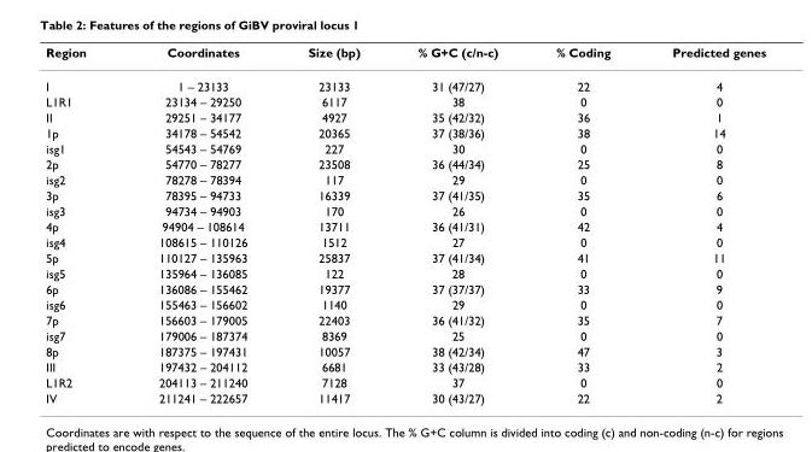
<table><thead><tr><td>Region</td><td>Coordinates</td><td>Size (bp)</td><td>% G+C (c/n-c)</td><td>% Coding</td><td>Predicted genes</td></tr></thead><tbody><tr><td>I</td><td>1 – 23133</td><td>23133</td><td>31 (47/27)</td><td>22</td><td>4</td></tr><tr><td>L1R1</td><td>23134 – 29250</td><td>6117</td><td>38</td><td>0</td><td>0</td></tr><tr><td>II</td><td>29251 – 34177</td><td>4927</td><td>35 (42/32)</td><td>36</td><td>1</td></tr><tr><td>1p</td><td>34178 – 54542</td><td>20365</td><td>37 (38/36)</td><td>38</td><td>14</td></tr><tr><td>isg1</td><td>54543 – 54769</td><td>227</td><td>30</td><td>0</td><td>0</td></tr><tr><td>2p</td><td>54770 – 78277</td><td>23508</td><td>36 (44/34)</td><td>25</td><td>8</td></tr><tr><td>isg2</td><td>78278 – 78394</td><td>117</td><td>29</td><td>0</td><td>0</td></tr><tr><td>3p</td><td>78395 – 94733</td><td>16339</td><td>37 (41/35)</td><td>35</td><td>6</td></tr><tr><td>isg3</td><td>94734 – 94903</td><td>170</td><td>26</td><td>0</td><td>0</td></tr><tr><td>4p</td><td>94904 – 108614</td><td>13711</td><td>36 (41/31)</td><td>42</td><td>4</td></tr><tr><td>isg4</td><td>108615 – 110126</td><td>1512</td><td>27</td><td>0</td><td>0</td></tr><tr><td>5p</td><td>110127 – 135963</td><td>25837</td><td>37 (41/34)</td><td>41</td><td>11</td></tr><tr><td>isg5</td><td>135964 – 136085</td><td>122</td><td>28</td><td>0</td><td>0</td></tr><tr><td>6p</td><td>136086 – 155462</td><td>19377</td><td>37 (37/37)</td><td>33</td><td>9</td></tr><tr><td>isg6</td><td>155463 – 156602</td><td>1140</td><td>29</td><td>0</td><td>0</td></tr><tr><td>7p</td><td>156603 – 179005</td><td>22403</td><td>36 (41/32)</td><td>35</td><td>7</td></tr><tr><td>isg7</td><td>179006 – 187374</td><td>8369</td><td>25</td><td>0</td><td>0</td></tr><tr><td>8p</td><td>187375 – 197431</td><td>10057</td><td>38 (42/34)</td><td>47</td><td>3</td></tr><tr><td>III</td><td>197432 – 204112</td><td>6681</td><td>33 (43/28)</td><td>33</td><td>2</td></tr><tr><td>L1R2</td><td>204113 – 211240</td><td>7128</td><td>37</td><td>0</td><td>0</td></tr><tr><td>IV</td><td>211241 – 222657</td><td>11417</td><td>30 (43/27)</td><td>22</td><td>2</td></tr></tbody></table>